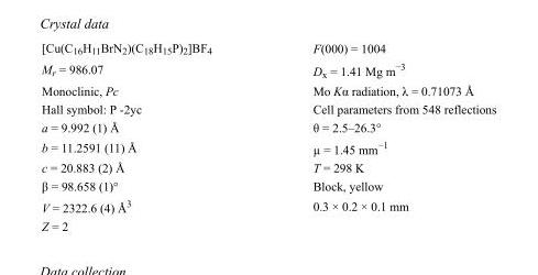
<table><tbody><tr><td>[Cu(C<sub>16</sub>H<sub>11</sub>BrN<sub>2</sub>)(C<sub>18</sub>H<sub>15</sub>P)<sub>2</sub>]BF<sub>4</sub></td><td>F(000) = 1004</td></tr><tr><td>M<sub>r</sub> = 986.07</td><td>D<sub>x</sub> = 1.41 Mg m<sup>−3</sup></td></tr><tr><td>Monoclinic, Pc</td><td>Mo Kα radiation, λ = 0.71073 Å</td></tr><tr><td>Hall symbol: P -2yc</td><td>Cell parameters from 548 reflections</td></tr><tr><td>a = 9.992 (1) Å</td><td>θ = 2.5–26.3°</td></tr><tr><td>b = 11.2591 (11) Å</td><td>µ = 1.45 mm<sup>−1</sup></td></tr><tr><td>c = 20.883 (2) Å</td><td>T = 298 K</td></tr><tr><td>β = 98.658 (1)°</td><td>Block, yellow</td></tr><tr><td>V = 2322.6 (4) Å<sup>3</sup></td><td>0.3 × 0.2 × 0.1 mm</td></tr><tr><td>Z = 2</td><td></td></tr></tbody></table>